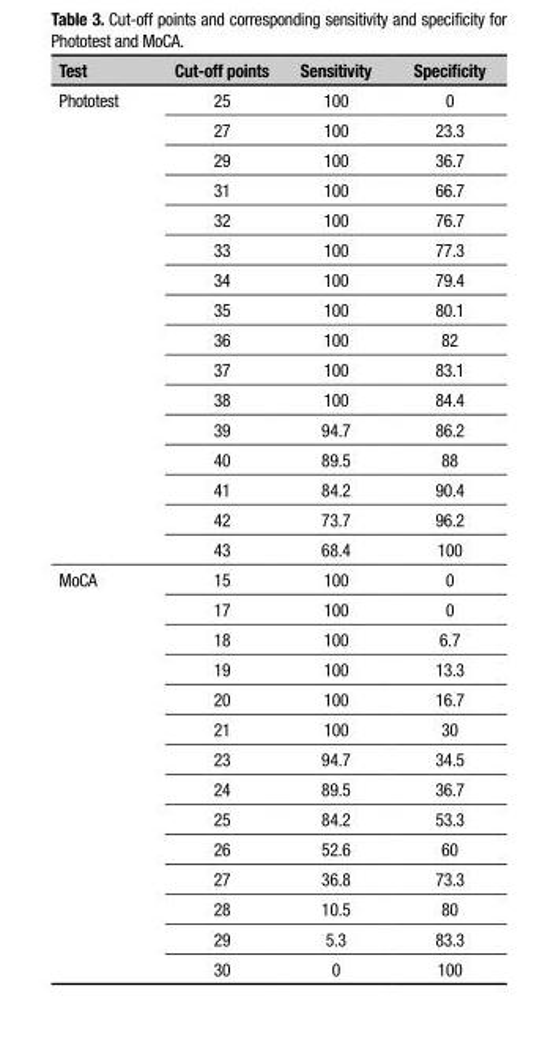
<table><thead><tr><td>Test</td><td>Cut-off points</td><td>Sensitivity</td><td>Specificity</td></tr></thead><tbody><tr><td rowspan="16">Phototest</td><td>25</td><td>100</td><td>0</td></tr><tr><td>27</td><td>100</td><td>23.3</td></tr><tr><td>29</td><td>100</td><td>36.7</td></tr><tr><td>31</td><td>100</td><td>66.7</td></tr><tr><td>32</td><td>100</td><td>76.7</td></tr><tr><td>33</td><td>100</td><td>77.3</td></tr><tr><td>34</td><td>100</td><td>79.4</td></tr><tr><td>35</td><td>100</td><td>80.1</td></tr><tr><td>36</td><td>100</td><td>82</td></tr><tr><td>37</td><td>100</td><td>83.1</td></tr><tr><td>38</td><td>100</td><td>84.4</td></tr><tr><td>39</td><td>94.7</td><td>86.2</td></tr><tr><td>40</td><td>89.5</td><td>88</td></tr><tr><td>41</td><td>84.2</td><td>90.4</td></tr><tr><td>42</td><td>73.7</td><td>96.2</td></tr><tr><td>43</td><td>68.4</td><td>100</td></tr><tr><td rowspan="14">MoCA</td><td>15</td><td>100</td><td>0</td></tr><tr><td>17</td><td>100</td><td>0</td></tr><tr><td>18</td><td>100</td><td>6.7</td></tr><tr><td>19</td><td>100</td><td>13.3</td></tr><tr><td>20</td><td>100</td><td>16.7</td></tr><tr><td>21</td><td>100</td><td>30</td></tr><tr><td>23</td><td>94.7</td><td>34.5</td></tr><tr><td>24</td><td>89.5</td><td>36.7</td></tr><tr><td>25</td><td>84.2</td><td>53.3</td></tr><tr><td>26</td><td>52.6</td><td>60</td></tr><tr><td>27</td><td>36.8</td><td>73.3</td></tr><tr><td>28</td><td>10.5</td><td>80</td></tr><tr><td>29</td><td>5.3</td><td>83.3</td></tr><tr><td>30</td><td>0</td><td>100</td></tr></tbody></table>